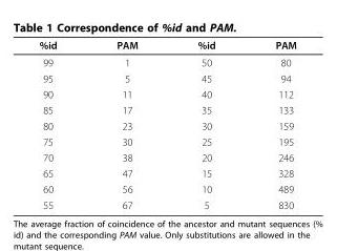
<table><thead><tr><td>%id</td><td>PAM</td><td>%id</td><td>PAM</td></tr></thead><tbody><tr><td>99</td><td>1</td><td>50</td><td>80</td></tr><tr><td>95</td><td>5</td><td>45</td><td>94</td></tr><tr><td>90</td><td>11</td><td>40</td><td>112</td></tr><tr><td>85</td><td>17</td><td>35</td><td>133</td></tr><tr><td>80</td><td>23</td><td>30</td><td>159</td></tr><tr><td>75</td><td>30</td><td>25</td><td>195</td></tr><tr><td>70</td><td>38</td><td>20</td><td>246</td></tr><tr><td>65</td><td>47</td><td>15</td><td>328</td></tr><tr><td>60</td><td>56</td><td>10</td><td>489</td></tr><tr><td>55</td><td>67</td><td>5</td><td>830</td></tr></tbody></table>